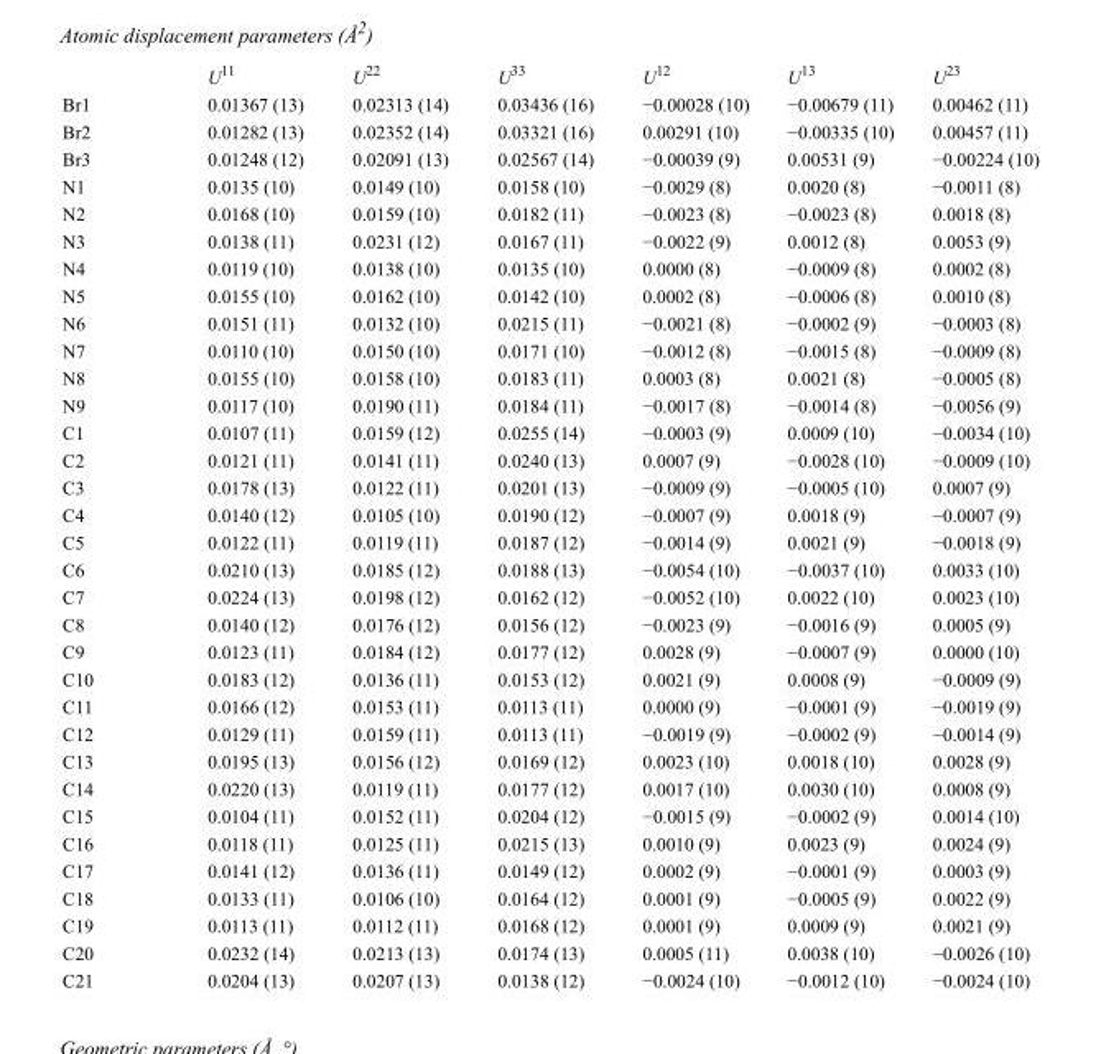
<table><thead><tr><td></td><td>U<sup>11</sup></td><td>U<sup>22</sup></td><td>U<sup>33</sup></td><td>U<sup>12</sup></td><td>U<sup>13</sup></td><td>U<sup>23</sup></td></tr></thead><tbody><tr><td>Br1</td><td>0.01367 (13)</td><td>0.02313 (14)</td><td>0.03436 (16)</td><td>−0.00028 (10)</td><td>−0.00679 (11)</td><td>0.00462 (11)</td></tr><tr><td>Br2</td><td>0.01282 (13)</td><td>0.02352 (14)</td><td>0.03321 (16)</td><td>0.00291 (10)</td><td>−0.00335 (10)</td><td>0.00457 (11)</td></tr><tr><td>Br3</td><td>0.01248 (12)</td><td>0.02091 (13)</td><td>0.02567 (14)</td><td>−0.00039 (9)</td><td>0.00531 (9)</td><td>−0.00224 (10)</td></tr><tr><td>N1</td><td>0.0135 (10)</td><td>0.0149 (10)</td><td>0.0158 (10)</td><td>−0.0029 (8)</td><td>0.0020 (8)</td><td>−0.0011 (8)</td></tr><tr><td>N2</td><td>0.0168 (10)</td><td>0.0159 (10)</td><td>0.0182 (11)</td><td>−0.0023 (8)</td><td>−0.0023 (8)</td><td>0.0018 (8)</td></tr><tr><td>N3</td><td>0.0138 (11)</td><td>0.0231 (12)</td><td>0.0167 (11)</td><td>−0.0022 (9)</td><td>0.0012 (8)</td><td>0.0053 (9)</td></tr><tr><td>N4</td><td>0.0119 (10)</td><td>0.0138 (10)</td><td>0.0135 (10)</td><td>0.0000 (8)</td><td>−0.0009 (8)</td><td>0.0002 (8)</td></tr><tr><td>N5</td><td>0.0155 (10)</td><td>0.0162 (10)</td><td>0.0142 (10)</td><td>0.0002 (8)</td><td>−0.0006 (8)</td><td>0.0010 (8)</td></tr><tr><td>N6</td><td>0.0151 (11)</td><td>0.0132 (10)</td><td>0.0215 (11)</td><td>−0.0021 (8)</td><td>−0.0002 (9)</td><td>−0.0003 (8)</td></tr><tr><td>N7</td><td>0.0110 (10)</td><td>0.0150 (10)</td><td>0.0171 (10)</td><td>−0.0012 (8)</td><td>−0.0015 (8)</td><td>−0.0009 (8)</td></tr><tr><td>N8</td><td>0.0155 (10)</td><td>0.0158 (10)</td><td>0.0183 (11)</td><td>0.0003 (8)</td><td>0.0021 (8)</td><td>−0.0005 (8)</td></tr><tr><td>N9</td><td>0.0117 (10)</td><td>0.0190 (11)</td><td>0.0184 (11)</td><td>−0.0017 (8)</td><td>−0.0014 (8)</td><td>−0.0056 (9)</td></tr><tr><td>C1</td><td>0.0107 (11)</td><td>0.0159 (12)</td><td>0.0255 (14)</td><td>−0.0003 (9)</td><td>0.0009 (10)</td><td>−0.0034 (10)</td></tr><tr><td>C2</td><td>0.0121 (11)</td><td>0.0141 (11)</td><td>0.0240 (13)</td><td>0.0007 (9)</td><td>−0.0028 (10)</td><td>−0.0009 (10)</td></tr><tr><td>C3</td><td>0.0178 (13)</td><td>0.0122 (11)</td><td>0.0201 (13)</td><td>−0.0009 (9)</td><td>−0.0005 (10)</td><td>0.0007 (9)</td></tr><tr><td>C4</td><td>0.0140 (12)</td><td>0.0105 (10)</td><td>0.0190 (12)</td><td>−0.0007 (9)</td><td>0.0018 (9)</td><td>−0.0007 (9)</td></tr><tr><td>C5</td><td>0.0122 (11)</td><td>0.0119 (11)</td><td>0.0187 (12)</td><td>−0.0014 (9)</td><td>0.0021 (9)</td><td>−0.0018 (9)</td></tr><tr><td>C6</td><td>0.0210 (13)</td><td>0.0185 (12)</td><td>0.0188 (13)</td><td>−0.0054 (10)</td><td>−0.0037 (10)</td><td>0.0033 (10)</td></tr><tr><td>C7</td><td>0.0224 (13)</td><td>0.0198 (12)</td><td>0.0162 (12)</td><td>−0.0052 (10)</td><td>0.0022 (10)</td><td>0.0023 (10)</td></tr><tr><td>C8</td><td>0.0140 (12)</td><td>0.0176 (12)</td><td>0.0156 (12)</td><td>−0.0023 (9)</td><td>−0.0016 (9)</td><td>0.0005 (9)</td></tr><tr><td>C9</td><td>0.0123 (11)</td><td>0.0184 (12)</td><td>0.0177 (12)</td><td>0.0028 (9)</td><td>−0.0007 (9)</td><td>0.0000 (10)</td></tr><tr><td>C10</td><td>0.0183 (12)</td><td>0.0136 (11)</td><td>0.0153 (12)</td><td>0.0021 (9)</td><td>0.0008 (9)</td><td>−0.0009 (9)</td></tr><tr><td>C11</td><td>0.0166 (12)</td><td>0.0153 (11)</td><td>0.0113 (11)</td><td>0.0000 (9)</td><td>−0.0001 (9)</td><td>−0.0019 (9)</td></tr><tr><td>C12</td><td>0.0129 (11)</td><td>0.0159 (11)</td><td>0.0113 (11)</td><td>−0.0019 (9)</td><td>−0.0002 (9)</td><td>−0.0014 (9)</td></tr><tr><td>C13</td><td>0.0195 (13)</td><td>0.0156 (12)</td><td>0.0169 (12)</td><td>0.0023 (10)</td><td>0.0018 (10)</td><td>0.0028 (9)</td></tr><tr><td>C14</td><td>0.0220 (13)</td><td>0.0119 (11)</td><td>0.0177 (12)</td><td>0.0017 (10)</td><td>0.0030 (10)</td><td>0.0008 (9)</td></tr><tr><td>C15</td><td>0.0104 (11)</td><td>0.0152 (11)</td><td>0.0204 (12)</td><td>−0.0015 (9)</td><td>−0.0002 (9)</td><td>0.0014 (10)</td></tr><tr><td>C16</td><td>0.0118 (11)</td><td>0.0125 (11)</td><td>0.0215 (13)</td><td>0.0010 (9)</td><td>0.0023 (9)</td><td>0.0024 (9)</td></tr><tr><td>C17</td><td>0.0141 (12)</td><td>0.0136 (11)</td><td>0.0149 (12)</td><td>0.0002 (9)</td><td>−0.0001 (9)</td><td>0.0003 (9)</td></tr><tr><td>C18</td><td>0.0133 (11)</td><td>0.0106 (10)</td><td>0.0164 (12)</td><td>0.0001 (9)</td><td>−0.0005 (9)</td><td>0.0022 (9)</td></tr><tr><td>C19</td><td>0.0113 (11)</td><td>0.0112 (11)</td><td>0.0168 (12)</td><td>0.0001 (9)</td><td>0.0009 (9)</td><td>0.0021 (9)</td></tr><tr><td>C20</td><td>0.0232 (14)</td><td>0.0213 (13)</td><td>0.0174 (13)</td><td>0.0005 (11)</td><td>0.0038 (10)</td><td>−0.0026 (10)</td></tr><tr><td>C21</td><td>0.0204 (13)</td><td>0.0207 (13)</td><td>0.0138 (12)</td><td>−0.0024 (10)</td><td>−0.0012 (10)</td><td>−0.0024 (10)</td></tr></tbody></table>